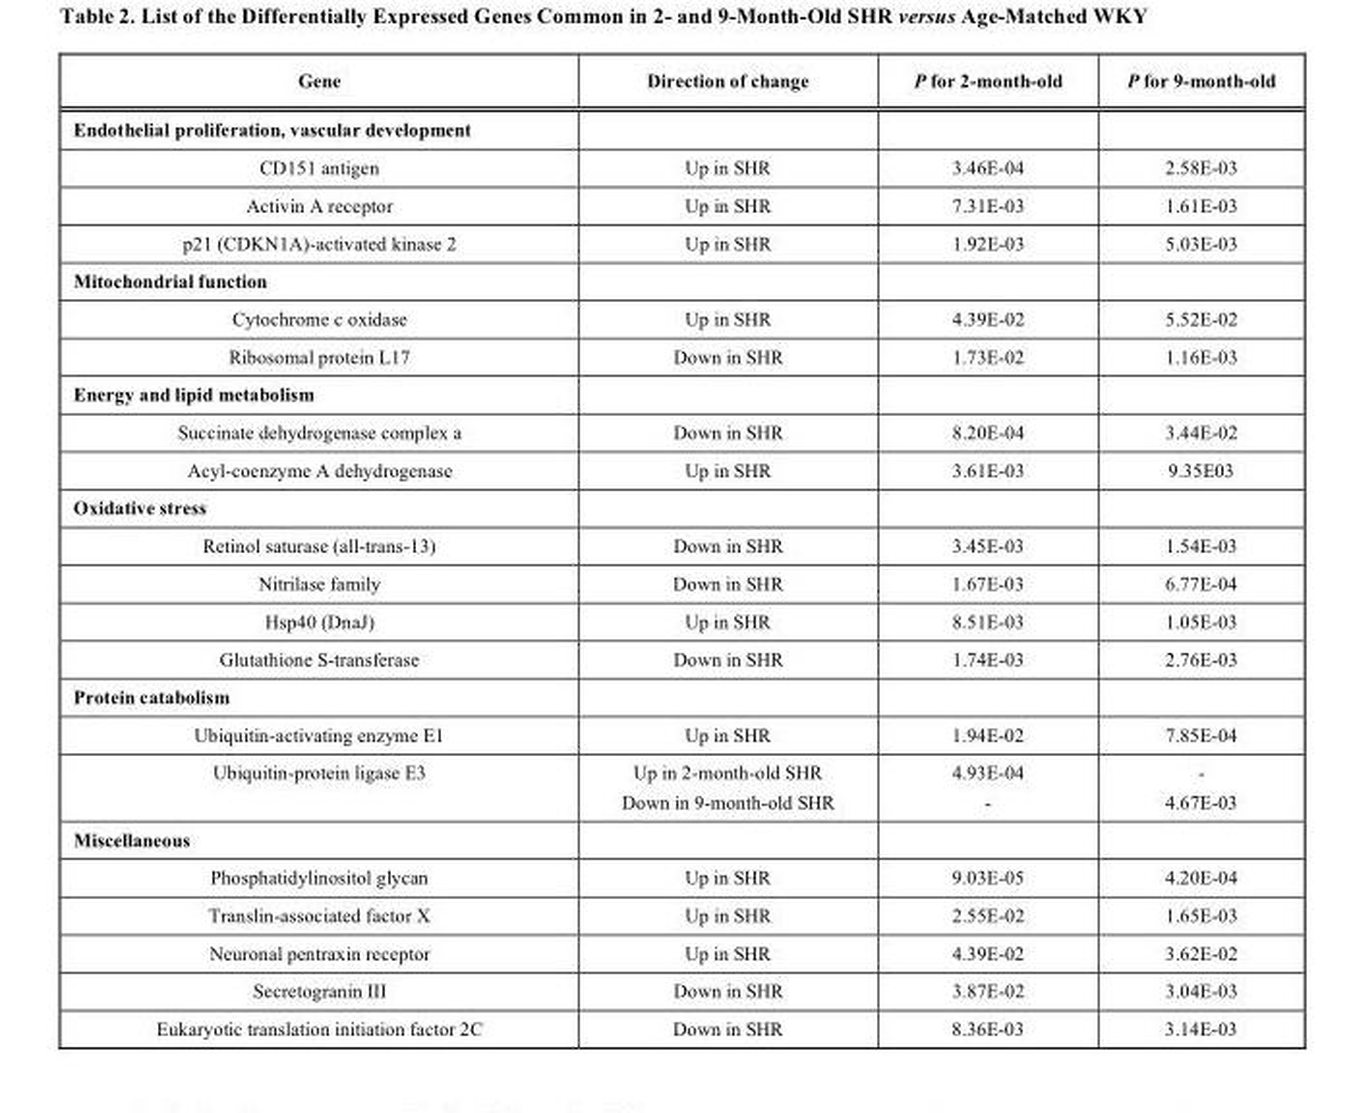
<table><thead><tr><td>Gene</td><td>Direction of change</td><td>P for 2-month-old</td><td>P for 9-month-old</td></tr></thead><tbody><tr><td colspan="4">Endothelial proliferation, vascular development</td></tr><tr><td>CD151 antigen</td><td>Up in SHR</td><td>3.46E-04</td><td>2.58E-03</td></tr><tr><td>Activin A receptor</td><td>Up in SHR</td><td>7.31E-03</td><td>1.61E-03</td></tr><tr><td>p21 (CDKN1A)-activated kinase 2</td><td>Up in SHR</td><td>1.92E-03</td><td>5.03E-03</td></tr><tr><td colspan="4">Mitochondrial function</td></tr><tr><td>Cytochrome c oxidase</td><td>Up in SHR</td><td>4.39E-02</td><td>5.52E-02</td></tr><tr><td>Ribosomal protein L17</td><td>Down in SHR</td><td>1.73E-02</td><td>1.16E-03</td></tr><tr><td colspan="4">Energy and lipid metabolism</td></tr><tr><td>Succinate dehydrogenase complex a</td><td>Down in SHR</td><td>8.20E-04</td><td>3.44E-02</td></tr><tr><td>Acyl-coenzyme A dehydrogenase</td><td>Up in SHR</td><td>3.61E-03</td><td>9.35E03</td></tr><tr><td colspan="4">Oxidative stress</td></tr><tr><td>Retinol saturase (all-trans-13)</td><td>Down in SHR</td><td>3.45E-03</td><td>1.54E-03</td></tr><tr><td>Nitrilase family</td><td>Down in SHR</td><td>1.67E-03</td><td>6.77E-04</td></tr><tr><td>Hsp40 (DnaJ)</td><td>Up in SHR</td><td>8.51E-03</td><td>1.05E-03</td></tr><tr><td>Glutathione S-transferase</td><td>Down in SHR</td><td>1.74E-03</td><td>2.76E-03</td></tr><tr><td colspan="4">Protein catabolism</td></tr><tr><td>Ubiquitin-activating enzyme E1</td><td>Up in SHR</td><td>1.94E-02</td><td>7.85E-04</td></tr><tr><td>Ubiquitin-protein ligase E3</td><td>Up in 2-month-old SHR Down in 9-month-old SHR</td><td>4.93E-04 -</td><td>- 4.67E-03</td></tr><tr><td colspan="4">Miscellaneous</td></tr><tr><td>Phosphatidylinositol glycan</td><td>Up in SHR</td><td>9.03E-05</td><td>4.20E-04</td></tr><tr><td>Translin-associated factor X</td><td>Up in SHR</td><td>2.55E-02</td><td>1.65E-03</td></tr><tr><td>Neuronal pentraxin receptor</td><td>Up in SHR</td><td>4.39E-02</td><td>3.62E-02</td></tr><tr><td>Secretogranin III</td><td>Down in SHR</td><td>3.87E-02</td><td>3.04E-03</td></tr><tr><td>Eukaryotic translation initiation factor 2C</td><td>Down in SHR</td><td>8.36E-03</td><td>3.14E-03</td></tr></tbody></table>